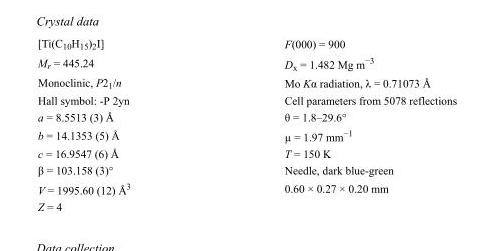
<table><tbody><tr><td>[Ti(C<sub>10</sub>H<sub>15</sub>)<sub>2</sub>I]</td><td>F(000) = 900</td></tr><tr><td>M<sub>r</sub> = 445.24</td><td>D<sub>x</sub> = 1.482 Mg m<sup>−3</sup></td></tr><tr><td>Monoclinic, P2<sub>1</sub>/n</td><td>Mo Kα radiation, λ = 0.71073 Å</td></tr><tr><td>Hall symbol: -P 2yn</td><td>Cell parameters from 5078 reflections</td></tr><tr><td>a = 8.5513 (3) Å</td><td>θ = 1.8–29.6°</td></tr><tr><td>b = 14.1353 (5) Å</td><td>µ = 1.97 mm<sup>−1</sup></td></tr><tr><td>c = 16.9547 (6) Å</td><td>T = 150 K</td></tr><tr><td>β = 103.158 (3)°</td><td>Needle, dark blue-green</td></tr><tr><td>V = 1995.60 (12) Å<sup>3</sup></td><td>0.60 × 0.27 × 0.20 mm</td></tr><tr><td>Z = 4</td><td></td></tr></tbody></table>